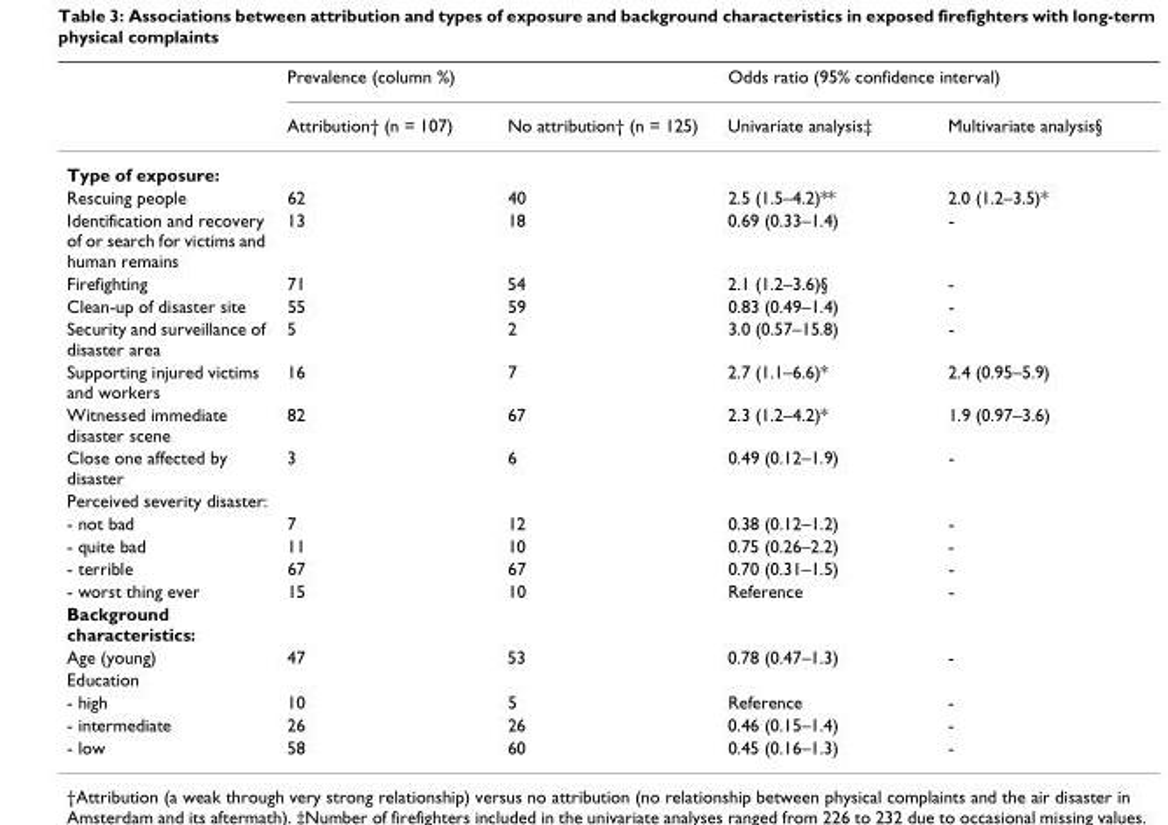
<table><thead><tr><td rowspan="2"></td><td colspan="2">Prevalence (column %)</td><td colspan="2">Odds ratio (95% confidence interval)</td></tr><tr><td>Attribution† (n = 107)</td><td>No attribution† (n = 125)</td><td>Univariate analysis‡</td><td>Multivariate analysis§</td></tr></thead><tbody><tr><td colspan="5">Type of exposure:</td></tr><tr><td>Rescuing people</td><td>62</td><td>40</td><td>2.5 (1.5–4.2)**</td><td>2.0 (1.2–3.5)*</td></tr><tr><td>Identification and recovery of or search for victims and human remains</td><td>13</td><td>18</td><td>0.69 (0.33–1.4)</td><td>-</td></tr><tr><td>Firefighting</td><td>71</td><td>54</td><td>2.1 (1.2–3.6)§</td><td>-</td></tr><tr><td>Clean-up of disaster site</td><td>55</td><td>59</td><td>0.83 (0.49–1.4)</td><td>-</td></tr><tr><td>Security and surveillance of disaster area</td><td>5</td><td>2</td><td>3.0 (0.57–15.8)</td><td>-</td></tr><tr><td>Supporting injured victims and workers</td><td>16</td><td>7</td><td>2.7 (1.1–6.6)*</td><td>2.4 (0.95–5.9)</td></tr><tr><td>Witnessed immediate disaster scene</td><td>82</td><td>67</td><td>2.3 (1.2–4.2)*</td><td>1.9 (0.97–3.6)</td></tr><tr><td>Close one affected by disaster</td><td>3</td><td>6</td><td>0.49 (0.12–1.9)</td><td>-</td></tr><tr><td colspan="5">Perceived severity disaster:</td></tr><tr><td>- not bad</td><td>7</td><td>12</td><td>0.38 (0.12–1.2)</td><td>-</td></tr><tr><td>- quite bad</td><td>11</td><td>10</td><td>0.75 (0.26–2.2)</td><td>-</td></tr><tr><td>- terrible</td><td>67</td><td>67</td><td>0.70 (0.31–1.5)</td><td>-</td></tr><tr><td>- worst thing ever</td><td>15</td><td>10</td><td>Reference</td><td>-</td></tr><tr><td colspan="5">Background characteristics:</td></tr><tr><td>Age (young)</td><td>47</td><td>53</td><td>0.78 (0.47–1.3)</td><td>-</td></tr><tr><td colspan="5">Education</td></tr><tr><td>- high</td><td>10</td><td>5</td><td>Reference</td><td>-</td></tr><tr><td>- intermediate</td><td>26</td><td>26</td><td>0.46 (0.15–1.4)</td><td>-</td></tr><tr><td>- low</td><td>58</td><td>60</td><td>0.45 (0.16–1.3)</td><td>-</td></tr></tbody></table>